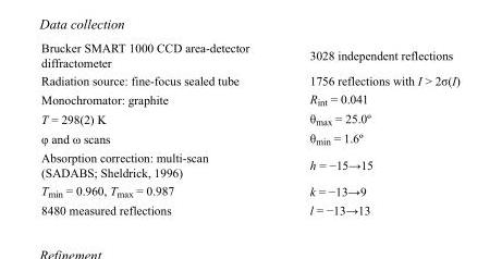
<table><tbody><tr><td>Brucker SMART 1000 CCD area-detector diffractometer</td><td>3028 independent reflections</td></tr><tr><td>Radiation source: fine-focus sealed tube</td><td>1756 reflections with I &gt; 2σ(I)</td></tr><tr><td>Monochromator: graphite</td><td>R<sub>int</sub> = 0.041</td></tr><tr><td>T = 298(2) K</td><td>θ<sub>max</sub> = 25.0º</td></tr><tr><td>φ and ω scans</td><td>θ<sub>min</sub> = 1.6º</td></tr><tr><td>Absorption correction: multi-scan (SADABS; Sheldrick, 1996)</td><td>h = −15→15</td></tr><tr><td>T<sub>min</sub> = 0.960, T<sub>max</sub> = 0.987</td><td>k = −13→9</td></tr><tr><td>8480 measured reflections</td><td>l = −13→13</td></tr></tbody></table>